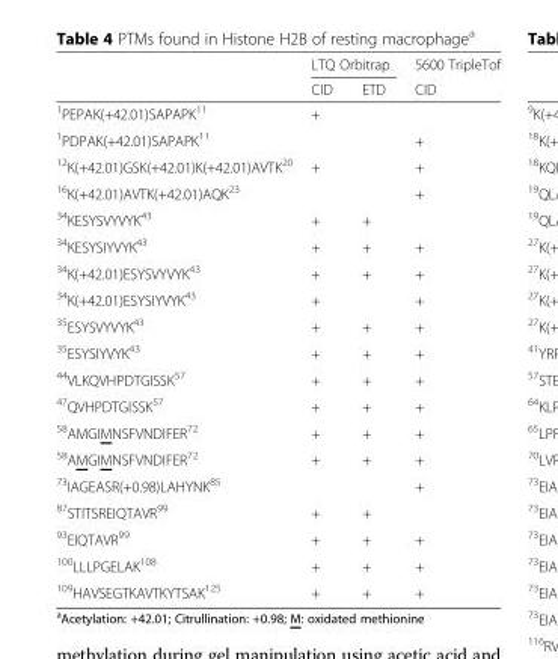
<table><thead><tr><td rowspan="2"></td><td colspan="2">LTQ Orbitrap</td><td rowspan="2">5600 TripleTof CID</td></tr><tr><td>CID</td><td>ETD</td></tr></thead><tbody><tr><td><sup>1</sup>PEPAK(+42.01)SAPAPK<sup>11</sup></td><td>+</td><td></td><td></td></tr><tr><td><sup>1</sup>PDPAK(+42.01)SAPAPK<sup>11</sup></td><td></td><td></td><td>+</td></tr><tr><td><sup>12</sup>K(+42.01)GSK(+42.01)K(+42.01)AVTK<sup>20</sup></td><td>+</td><td></td><td>+</td></tr><tr><td><sup>16</sup>K(+42.01)AVTK(+42.01)AQK<sup>23</sup></td><td></td><td></td><td>+</td></tr><tr><td><sup>34</sup>KESYSVYVYK<sup>43</sup></td><td>+</td><td>+</td><td></td></tr><tr><td><sup>34</sup>KESYSIYVYK<sup>43</sup></td><td>+</td><td>+</td><td>+</td></tr><tr><td><sup>34</sup>K(+42.01)ESYSVYVYK<sup>43</sup></td><td>+</td><td>+</td><td>+</td></tr><tr><td><sup>34</sup>K(+42.01)ESYSIYVYK<sup>43</sup></td><td>+</td><td></td><td>+</td></tr><tr><td><sup>35</sup>ESYSVYVYK<sup>43</sup></td><td>+</td><td>+</td><td>+</td></tr><tr><td><sup>35</sup>ESYSIYVYK<sup>43</sup></td><td>+</td><td>+</td><td>+</td></tr><tr><td><sup>44</sup>VLKQVHPDTGISSK<sup>57</sup></td><td>+</td><td>+</td><td>+</td></tr><tr><td><sup>47</sup>QVHPDTGISSK<sup>57</sup></td><td>+</td><td>+</td><td>+</td></tr><tr><td><sup>58</sup>AMGIMNSFVNDIFER<sup>72</sup></td><td>+</td><td>+</td><td>+</td></tr><tr><td><sup>58</sup>AMGIMNSFVNDIFER<sup>72</sup></td><td>+</td><td>+</td><td>+</td></tr><tr><td><sup>73</sup>IAGEASR(+0.98)LAHYNK<sup>85</sup></td><td></td><td></td><td>+</td></tr><tr><td><sup>87</sup>STITSREIQTAVR<sup>99</sup></td><td>+</td><td>+</td><td></td></tr><tr><td><sup>93</sup>EIQTAVR<sup>99</sup></td><td>+</td><td>+</td><td>+</td></tr><tr><td><sup>100</sup>LLLPGELAK<sup>108</sup></td><td>+</td><td>+</td><td>+</td></tr><tr><td><sup>109</sup>HAVSEGTKAVTKYTSAK<sup>125</sup></td><td>+</td><td>+</td><td>+</td></tr></tbody></table>